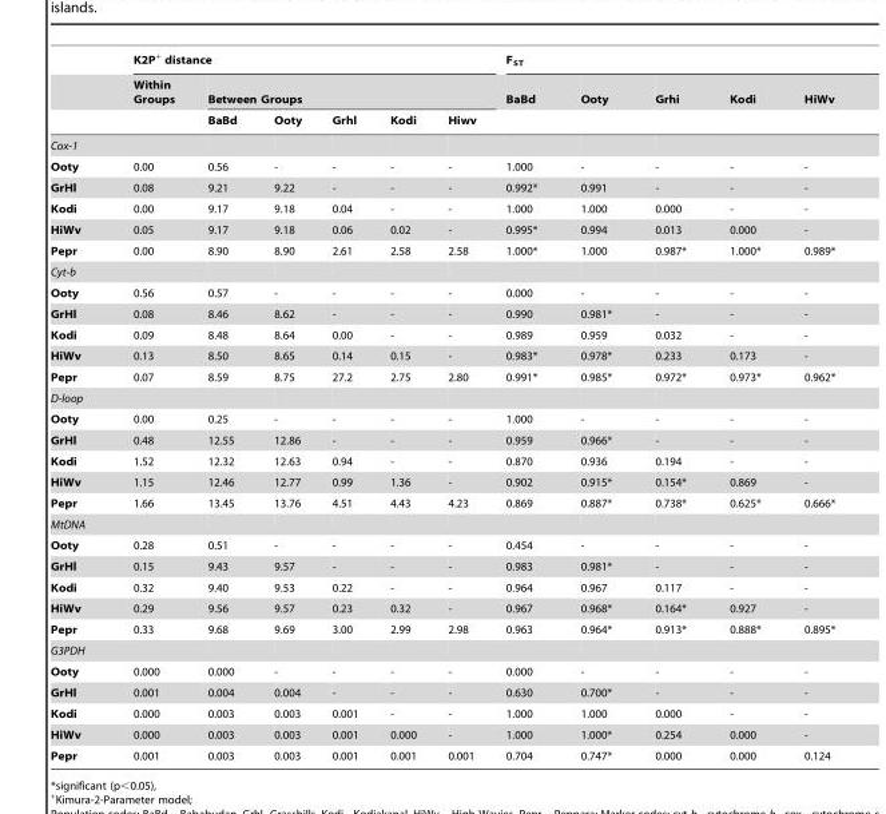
<table><thead><tr><td rowspan="3"></td><td colspan="6">K2P+ distance</td><td colspan="5">F<sub>ST</sub></td></tr><tr><td rowspan="2">Within Groups</td><td colspan="5">Between Groups</td><td rowspan="2">BaBd</td><td rowspan="2">Ooty</td><td rowspan="2">Grhi</td><td rowspan="2">Kodi</td><td rowspan="2">HiWv</td></tr><tr><td>BaBd</td><td>Ooty</td><td>Grhl</td><td>Kodi</td><td>Hiwv</td></tr></thead><tbody><tr><td colspan="12">Cox-1</td></tr><tr><td>Ooty</td><td>0.00</td><td>0.56</td><td>-</td><td>-</td><td>-</td><td>-</td><td>1.000</td><td>-</td><td>-</td><td>-</td><td>-</td></tr><tr><td>GrHl</td><td>0.08</td><td>9.21</td><td>9.22</td><td>-</td><td>-</td><td>-</td><td>0.992*</td><td>0.991</td><td>-</td><td>-</td><td>-</td></tr><tr><td>Kodi</td><td>0.00</td><td>9.17</td><td>9.18</td><td>0.04</td><td>-</td><td>-</td><td>1.000</td><td>1.000</td><td>0.000</td><td>-</td><td>-</td></tr><tr><td>HiWv</td><td>0.05</td><td>9.17</td><td>9.18</td><td>0.06</td><td>0.02</td><td>-</td><td>0.995*</td><td>0.994</td><td>0.013</td><td>0.000</td><td>-</td></tr><tr><td>Pepr</td><td>0.00</td><td>8.90</td><td>8.90</td><td>2.61</td><td>2.58</td><td>2.58</td><td>1.000*</td><td>1.000</td><td>0.987*</td><td>1.000*</td><td>0.989*</td></tr><tr><td colspan="12">Cyt-b</td></tr><tr><td>Ooty</td><td>0.56</td><td>0.57</td><td>-</td><td>-</td><td>-</td><td>-</td><td>0.000</td><td>-</td><td>-</td><td>-</td><td>-</td></tr><tr><td>GrHl</td><td>0.08</td><td>8.46</td><td>8.62</td><td>-</td><td>-</td><td>-</td><td>0.990</td><td>0.981*</td><td>-</td><td>-</td><td>-</td></tr><tr><td>Kodi</td><td>0.09</td><td>8.48</td><td>8.64</td><td>0.00</td><td>-</td><td>-</td><td>0.989</td><td>0.959</td><td>0.032</td><td>-</td><td>-</td></tr><tr><td>HiWv</td><td>0.13</td><td>8.50</td><td>8.65</td><td>0.14</td><td>0.15</td><td>-</td><td>0.983*</td><td>0.978*</td><td>0.233</td><td>0.173</td><td>-</td></tr><tr><td>Pepr</td><td>0.07</td><td>8.59</td><td>8.75</td><td>27.2</td><td>2.75</td><td>2.80</td><td>0.991*</td><td>0.985*</td><td>0.972*</td><td>0.973*</td><td>0.962*</td></tr><tr><td colspan="12">D-loop</td></tr><tr><td>Ooty</td><td>0.00</td><td>0.25</td><td>-</td><td>-</td><td>-</td><td>-</td><td>1.000</td><td>-</td><td>-</td><td>-</td><td>-</td></tr><tr><td>GrHl</td><td>0.48</td><td>12.55</td><td>12.86</td><td>-</td><td>-</td><td>-</td><td>0.959</td><td>0.966*</td><td>-</td><td>-</td><td>-</td></tr><tr><td>Kodi</td><td>1.52</td><td>12.32</td><td>12.63</td><td>0.94</td><td>-</td><td>-</td><td>0.870</td><td>0.936</td><td>0.194</td><td>-</td><td>-</td></tr><tr><td>HiWv</td><td>1.15</td><td>12.46</td><td>12.77</td><td>0.99</td><td>1.36</td><td>-</td><td>0.902</td><td>0.915*</td><td>0.154*</td><td>0.869</td><td>-</td></tr><tr><td>Pepr</td><td>1.66</td><td>13.45</td><td>13.76</td><td>4.51</td><td>4.43</td><td>4.23</td><td>0.869</td><td>0.887*</td><td>0.738*</td><td>0.625*</td><td>0.666*</td></tr><tr><td colspan="12">MtDNA</td></tr><tr><td>Ooty</td><td>0.28</td><td>0.51</td><td>-</td><td>-</td><td>-</td><td>-</td><td>0.454</td><td>-</td><td>-</td><td>-</td><td>-</td></tr><tr><td>GrHl</td><td>0.15</td><td>9.43</td><td>9.57</td><td>-</td><td>-</td><td>-</td><td>0.983</td><td>0.981*</td><td>-</td><td>-</td><td>-</td></tr><tr><td>Kodi</td><td>0.32</td><td>9.40</td><td>9.53</td><td>0.22</td><td>-</td><td>-</td><td>0.964</td><td>0.967</td><td>0.117</td><td>-</td><td>-</td></tr><tr><td>HiWv</td><td>0.29</td><td>9.56</td><td>9.57</td><td>0.23</td><td>0.32</td><td>-</td><td>0.967</td><td>0.968*</td><td>0.164*</td><td>0.927</td><td>-</td></tr><tr><td>Pepr</td><td>0.33</td><td>9.68</td><td>9.69</td><td>3.00</td><td>2.99</td><td>2.98</td><td>0.963</td><td>0.964*</td><td>0.913*</td><td>0.888*</td><td>0.895*</td></tr><tr><td colspan="12">G3PDH</td></tr><tr><td>Ooty</td><td>0.000</td><td>0.000</td><td>-</td><td>-</td><td>-</td><td>-</td><td>0.000</td><td>-</td><td>-</td><td>-</td><td>-</td></tr><tr><td>GrHl</td><td>0.001</td><td>0.004</td><td>0.004</td><td>-</td><td>-</td><td>-</td><td>0.630</td><td>0.700*</td><td>-</td><td>-</td><td>-</td></tr><tr><td>Kodi</td><td>0.000</td><td>0.003</td><td>0.003</td><td>0.001</td><td>-</td><td>-</td><td>1.000</td><td>1.000</td><td>0.000</td><td>-</td><td>-</td></tr><tr><td>HiWv</td><td>0.000</td><td>0.003</td><td>0.003</td><td>0.001</td><td>0.000</td><td>-</td><td>1.000</td><td>1.000*</td><td>0.254</td><td>0.000</td><td>-</td></tr><tr><td>Pepr</td><td>0.001</td><td>0.003</td><td>0.003</td><td>0.001</td><td>0.001</td><td>0.001</td><td>0.704</td><td>0.747*</td><td>0.000</td><td>0.000</td><td>0.124</td></tr></tbody></table>